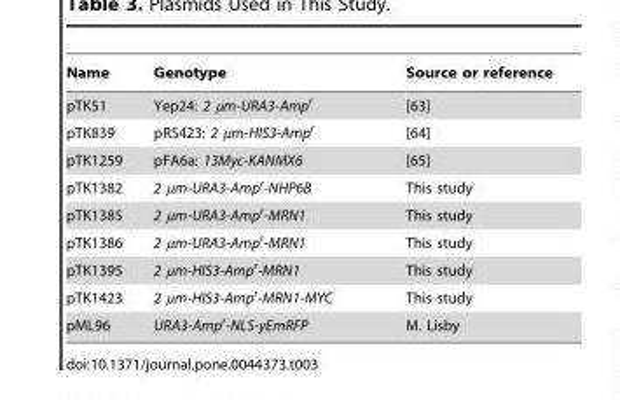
<table><thead><tr><td>Name</td><td>Genotype</td><td>Source or reference</td></tr></thead><tbody><tr><td>pTK51</td><td>Yep24: 2 µm-URA3-Amp<sup>r</sup></td><td>[63]</td></tr><tr><td>pTK839</td><td>pRS423: 2 µm-HIS3-Amp<sup>r</sup></td><td>[64]</td></tr><tr><td>pTK1259</td><td>pFA6a: 13Myc-KANMX6</td><td>[65]</td></tr><tr><td>pTK1382</td><td>2 µm-URA3-Amp<sup>r</sup>-NHP6B</td><td>This study</td></tr><tr><td>pTK1385</td><td>2 µm-URA3-Amp<sup>r</sup>-MRN1</td><td>This study</td></tr><tr><td>pTK1386</td><td>2 µm-URA3-Amp<sup>r</sup>-MRN1</td><td>This study</td></tr><tr><td>pTK1395</td><td>2 µm-HIS3-Amp<sup>r</sup>-MRN1</td><td>This study</td></tr><tr><td>pTK1423</td><td>2 µm-HIS3-Amp<sup>r</sup>-MRN1-MYC</td><td>This study</td></tr><tr><td>pML96</td><td>URA3-Amp<sup>r</sup>-NLS-yEmRFP</td><td>M. Lisby</td></tr></tbody></table>